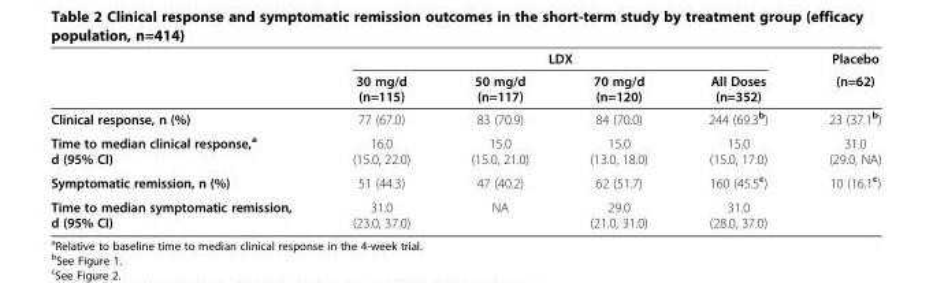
<table><thead><tr><td rowspan="2"></td><td colspan="4">LDX</td><td rowspan="2">Placebo (n=62)</td></tr><tr><td>30 mg/d (n=115)</td><td>50 mg/d (n=117)</td><td>70 mg/d (n=120)</td><td>All Doses (n=352)</td></tr></thead><tbody><tr><td>Clinical response, n (%)</td><td>77 (67.0)</td><td>83 (70.9)</td><td>84 (70.0)</td><td>244 (69.3<sup>b</sup>)</td><td>23 (37.1<sup>b</sup>)</td></tr><tr><td>Time to median clinical response,<sup>a</sup> d (95% CI)</td><td>16.0 (15.0, 22.0)</td><td>15.0 (15.0, 21.0)</td><td>15.0 (13.0, 18.0)</td><td>15.0 (15.0, 17.0)</td><td>31.0 (29.0, NA)</td></tr><tr><td>Symptomatic remission, n (%)</td><td>51 (44.3)</td><td>47 (40.2)</td><td>62 (51.7)</td><td>160 (45.5<sup>c</sup>)</td><td>10 (16.1<sup>c</sup>)</td></tr><tr><td>Time to median symptomatic remission, d (95% CI)</td><td>31.0 (23.0, 37.0)</td><td>NA</td><td>29.0 (21.0, 31.0)</td><td>31.0 (28.0, 37.0)</td><td></td></tr></tbody></table>